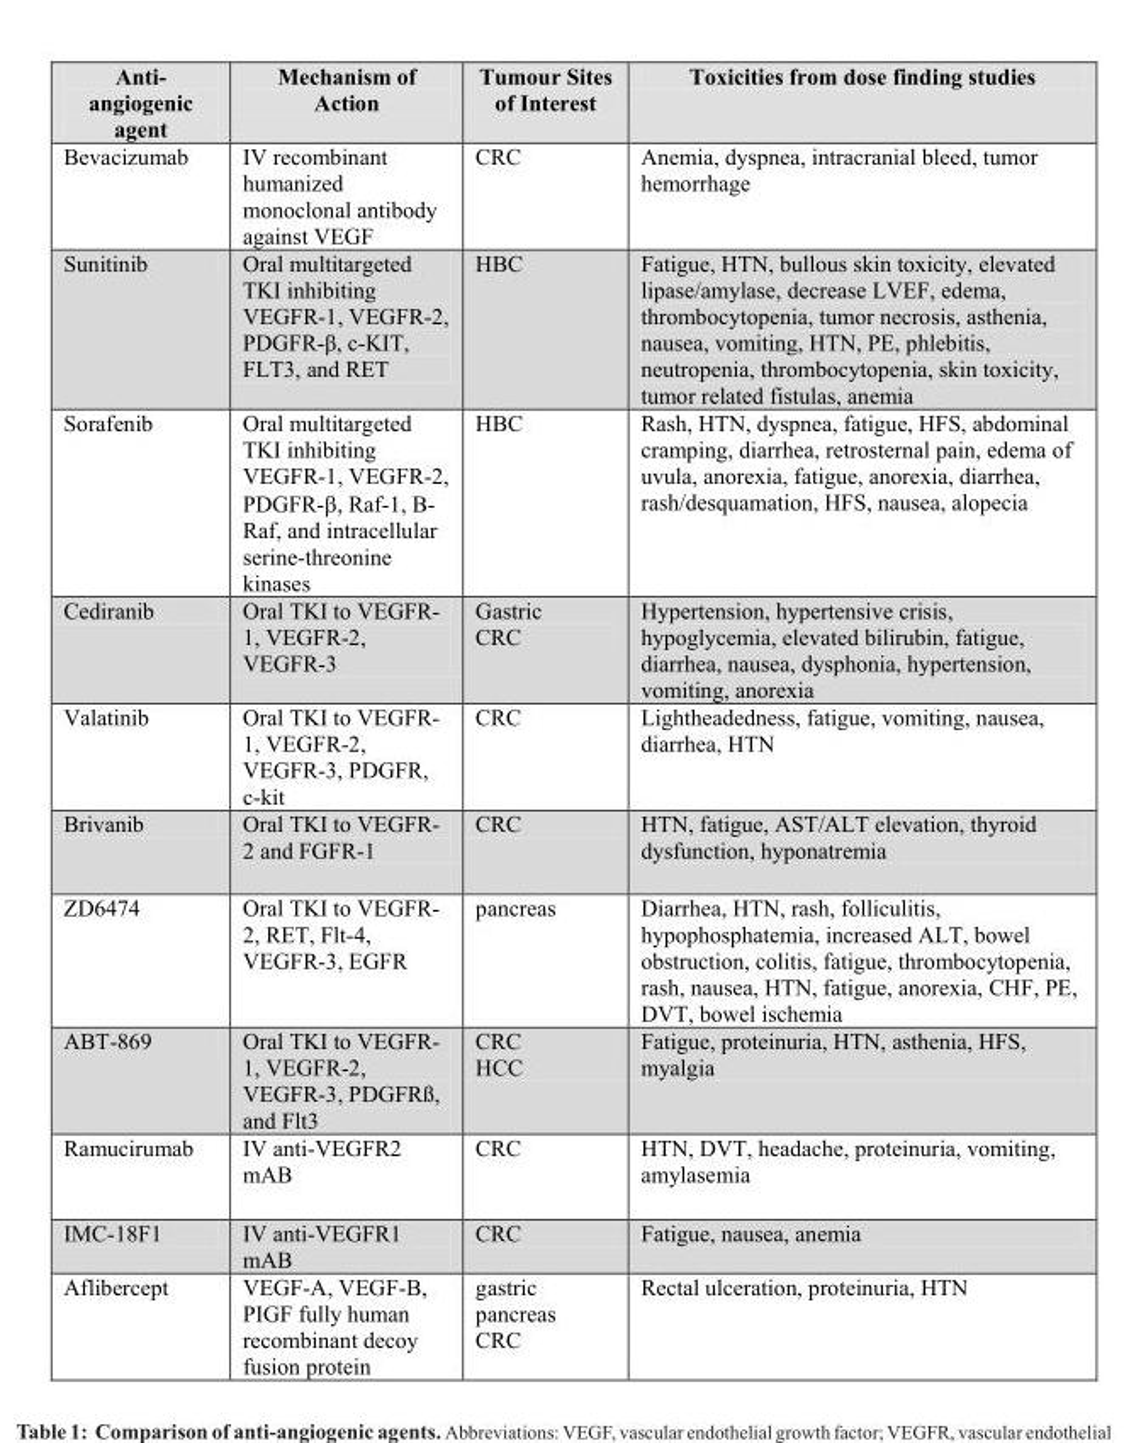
<table><thead><tr><td>Anti- angiogenic agent</td><td>Mechanism of Action</td><td>tumour sites of Interest</td><td>toxicities from dose finding studies</td></tr></thead><tbody><tr><td>Bevacizumab</td><td>IV recombinant humanized monoclonal antibody against VEGF</td><td>CRC</td><td>Anemia, dyspnea, intracranial bleed, tumor hemorrhage</td></tr><tr><td>Sunitinib</td><td>Oral multitargeted TKI inhibiting VEGFR-1, VEGFR-2, PDGFR-β, c-KIT, FLT3, and RET</td><td>HBC</td><td>Fatigue, HTN, bullous skin toxicity, elevated lipase/amylase, decrease LVEF, edema, thrombocytopenia, tumor necrosis, asthenia, nausea, vomiting, HTN, PE, phlebitis, neutropenia, thrombocytopenia, skin toxicity, tumor related fistulas, anemia</td></tr><tr><td>Sorafenib</td><td>Oral multitargeted TKI inhibiting VEGFR-1, VEGFR-2, PDGFR-β, Raf-1, B- Raf, and intracellular serine-threonine kinases</td><td>HBC</td><td>Rash, HTN, dyspnea, fatigue, HFS, abdominal cramping, diarrhea, retrosternal pain, edema of uvula, anorexia, fatigue, anorexia, diarrhea, rash/desquamation, HFS, nausea, alopecia</td></tr><tr><td>Cediranib</td><td>Oral TKI to VEGFR- 1, VEGFR-2, VEGFR-3</td><td>Gastric CRC</td><td>Hypertension, hypertensive crisis, hypoglycemia, elevated bilirubin, fatigue, diarrhea, nausea, dysphonia, hypertension, vomiting, anorexia</td></tr><tr><td>Valatinib</td><td>Oral TKI to VEGFR- 1, VEGFR-2, VEGFR-3, PDGFR, c-kit</td><td>CRC</td><td>Lightheadedness, fatigue, vomiting, nausea, diarrhea, HTN</td></tr><tr><td>Brivanib</td><td>Oral TKI to VEGFR- 2 and FGFR-1</td><td>CRC</td><td>HTN, fatigue, AST/ALT elevation, thyroid dysfunction, hyponatremia</td></tr><tr><td>ZD6474</td><td>Oral TKI to VEGFR- 2, RET, Flt-4, VEGFR-3, EGFR</td><td>pancreas</td><td>Diarrhea, HTN, rash, folliculitis, hypophosphatemia, increased ALT, bowel obstruction, colitis, fatigue, thrombocytopenia, rash, nausea, HTN, fatigue, anorexia, CHF, PE, DVT, bowel ischemia</td></tr><tr><td>ABT-869</td><td>Oral TKI to VEGFR- 1, VEGFR-2, VEGFR-3, PDGFRß, and Flt3</td><td>CRC HCC</td><td>Fatigue, proteinuria, HTN, asthenia, HFS, myalgia</td></tr><tr><td>Ramucirumab</td><td>IV anti-VEGFR2 mAB</td><td>CRC</td><td>HTN, DVT, headache, proteinuria, vomiting, amylasemia</td></tr><tr><td>IMC-18F1</td><td>IV anti-VEGFR1 mAB</td><td>CRC</td><td>Fatigue, nausea, anemia</td></tr><tr><td>Aflibercept</td><td>VEGF-A, VEGF-B, PIGF fully human recombinant decoy fusion protein</td><td>gastric pancreas CRC</td><td>Rectal ulceration, proteinuria, HTN</td></tr></tbody></table>